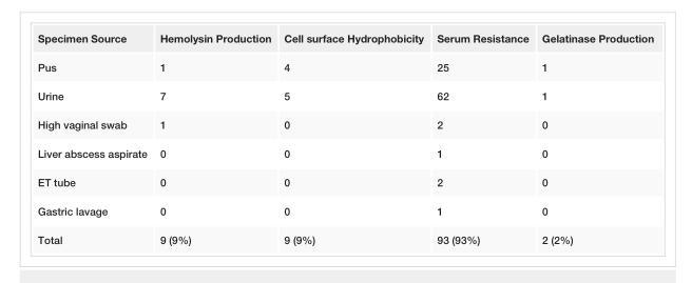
<table><tbody><tr><td>Specimen Source</td><td>Hemolysin Production</td><td>Cell surface Hydrophobicity</td><td>Serum Resistance</td><td>Gelatinase Production</td></tr><tr><td>Pus</td><td>1</td><td>4</td><td>25</td><td>1</td></tr><tr><td>Urine</td><td>7</td><td>5</td><td>62</td><td>1</td></tr><tr><td>High vaginal swab</td><td>1</td><td>0</td><td>2</td><td>0</td></tr><tr><td>Liver abscess aspirate</td><td>0</td><td>0</td><td>1</td><td>0</td></tr><tr><td>ET tube</td><td>0</td><td>0</td><td>2</td><td>0</td></tr><tr><td>Gastric lavage</td><td>0</td><td>0</td><td>1</td><td>0</td></tr><tr><td>Total</td><td>9 (9%)</td><td>9 (9%)</td><td>93 (93%)</td><td>2 (2%)</td></tr></tbody></table>